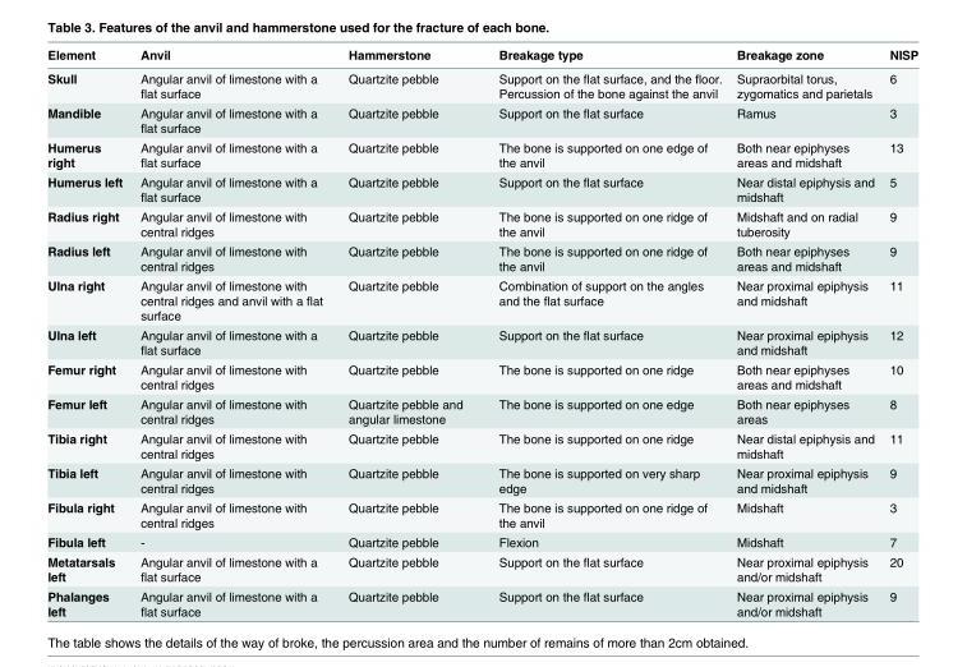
<table><thead><tr><td>Element</td><td>Anvil</td><td>Hammerstone</td><td>Breakage type</td><td>Breakage zone</td><td>NISP</td></tr></thead><tbody><tr><td>Skull</td><td>Angular anvil of limestone with a flat surface</td><td>Quartzite pebble</td><td>Support on the flat surface, and the floor. Percussion of the bone against the anvil</td><td>Supraorbital torus, zygomatics and parietals</td><td>6</td></tr><tr><td>Mandible</td><td>Angular anvil of limestone with a flat surface</td><td>Quartzite pebble</td><td>Support on the flat surface</td><td>Ramus</td><td>3</td></tr><tr><td>Humerus right</td><td>Angular anvil of limestone with a flat surface</td><td>Quartzite pebble</td><td>The bone is supported on one edge of the anvil</td><td>Both near epiphyses areas and midshaft</td><td>13</td></tr><tr><td>Humerus left</td><td>Angular anvil of limestone with a flat surface</td><td>Quartzite pebble</td><td>Support on the flat surface</td><td>Near distal epiphysis and midshaft</td><td>5</td></tr><tr><td>Radius right</td><td>Angular anvil of limestone with central ridges</td><td>Quartzite pebble</td><td>The bone is supported on one ridge of the anvil</td><td>Midshaft and on radial tuberosity</td><td>9</td></tr><tr><td>Radius left</td><td>Angular anvil of limestone with central ridges</td><td>Quartzite pebble</td><td>The bone is supported on one ridge of the anvil</td><td>Both near epiphyses areas and midshaft</td><td>9</td></tr><tr><td>Ulna right</td><td>Angular anvil of limestone with central ridges and anvil with a flat surface</td><td>Quartzite pebble</td><td>Combination of support on the angles and the flat surface</td><td>Near proximal epiphysis and midshaft</td><td>11</td></tr><tr><td>Ulna left</td><td>Angular anvil of limestone with a flat surface</td><td>Quartzite pebble</td><td>Support on the flat surface</td><td>Near proximal epiphysis and midshaft</td><td>12</td></tr><tr><td>Femur right</td><td>Angular anvil of limestone with central ridges</td><td>Quartzite pebble</td><td>The bone is supported on one ridge</td><td>Both near epiphyses areas and midshaft</td><td>10</td></tr><tr><td>Femur left</td><td>Angular anvil of limestone with central ridges</td><td>Quartzite pebble and angular limestone</td><td>The bone is supported on one edge</td><td>Both near epiphyses areas</td><td>8</td></tr><tr><td>Tibia right</td><td>Angular anvil of limestone with central ridges</td><td>Quartzite pebble</td><td>The bone is supported on one ridge</td><td>Near distal epiphysis and midshaft</td><td>11</td></tr><tr><td>Tibia left</td><td>Angular anvil of limestone with central ridges</td><td>Quartzite pebble</td><td>The bone is supported on very sharp edge</td><td>Near proximal epiphysis and midshaft</td><td>9</td></tr><tr><td>Fibula right</td><td>Angular anvil of limestone with central ridges</td><td>Quartzite pebble</td><td>The bone is supported on one ridge of the anvil</td><td>Midshaft</td><td>3</td></tr><tr><td>Fibula left</td><td>-</td><td>Quartzite pebble</td><td>Flexion</td><td>Midshaft</td><td>7</td></tr><tr><td>Metatarsals left</td><td>Angular anvil of limestone with a flat surface</td><td>Quartzite pebble</td><td>Support on the flat surface</td><td>Near proximal epiphysis and/or midshaft</td><td>20</td></tr><tr><td>Phalanges left</td><td>Angular anvil of limestone with a flat surface</td><td>Quartzite pebble</td><td>Support on the flat surface</td><td>Near proximal epiphysis and/or midshaft</td><td>9</td></tr></tbody></table>